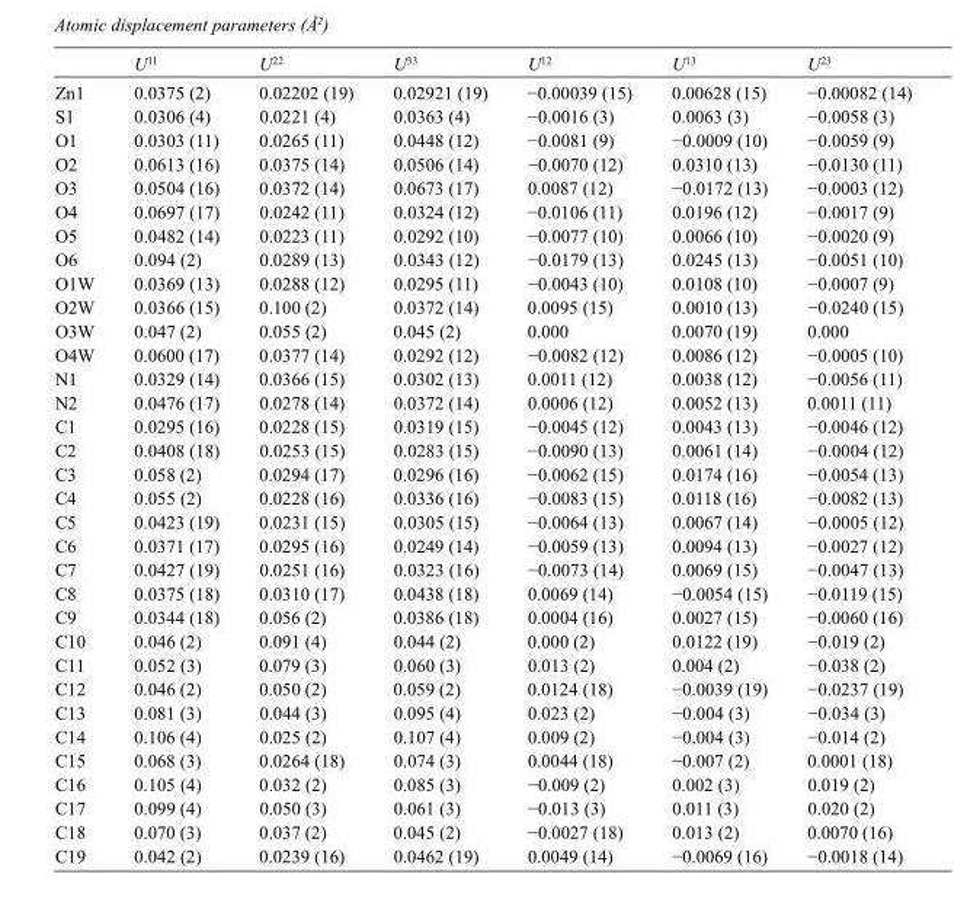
<table><thead><tr><td></td><td>U<sup>11</sup></td><td>U<sup>22</sup></td><td>U<sup>33</sup></td><td>U<sup>12</sup></td><td>U<sup>13</sup></td><td>U<sup>23</sup></td></tr></thead><tbody><tr><td>Zn1</td><td>0.0375 (2)</td><td>0.02202 (19)</td><td>0.02921 (19)</td><td>−0.00039 (15)</td><td>0.00628 (15)</td><td>−0.00082 (14)</td></tr><tr><td>S1</td><td>0.0306 (4)</td><td>0.0221 (4)</td><td>0.0363 (4)</td><td>−0.0016 (3)</td><td>0.0063 (3)</td><td>−0.0058 (3)</td></tr><tr><td>O1</td><td>0.0303 (11)</td><td>0.0265 (11)</td><td>0.0448 (12)</td><td>−0.0081 (9)</td><td>−0.0009 (10)</td><td>−0.0059 (9)</td></tr><tr><td>O2</td><td>0.0613 (16)</td><td>0.0375 (14)</td><td>0.0506 (14)</td><td>−0.0070 (12)</td><td>0.0310 (13)</td><td>−0.0130 (11)</td></tr><tr><td>O3</td><td>0.0504 (16)</td><td>0.0372 (14)</td><td>0.0673 (17)</td><td>0.0087 (12)</td><td>−0.0172 (13)</td><td>−0.0003 (12)</td></tr><tr><td>O4</td><td>0.0697 (17)</td><td>0.0242 (11)</td><td>0.0324 (12)</td><td>−0.0106 (11)</td><td>0.0196 (12)</td><td>−0.0017 (9)</td></tr><tr><td>O5</td><td>0.0482 (14)</td><td>0.0223 (11)</td><td>0.0292 (10)</td><td>−0.0077 (10)</td><td>0.0066 (10)</td><td>−0.0020 (9)</td></tr><tr><td>O6</td><td>0.094 (2)</td><td>0.0289 (13)</td><td>0.0343 (12)</td><td>−0.0179 (13)</td><td>0.0245 (13)</td><td>−0.0051 (10)</td></tr><tr><td>O1W</td><td>0.0369 (13)</td><td>0.0288 (12)</td><td>0.0295 (11)</td><td>−0.0043 (10)</td><td>0.0108 (10)</td><td>−0.0007 (9)</td></tr><tr><td>O2W</td><td>0.0366 (15)</td><td>0.100 (2)</td><td>0.0372 (14)</td><td>0.0095 (15)</td><td>0.0010 (13)</td><td>−0.0240 (15)</td></tr><tr><td>O3W</td><td>0.047 (2)</td><td>0.055 (2)</td><td>0.045 (2)</td><td>0.000</td><td>0.0070 (19)</td><td>0.000</td></tr><tr><td>O4W</td><td>0.0600 (17)</td><td>0.0377 (14)</td><td>0.0292 (12)</td><td>−0.0082 (12)</td><td>0.0086 (12)</td><td>−0.0005 (10)</td></tr><tr><td>N1</td><td>0.0329 (14)</td><td>0.0366 (15)</td><td>0.0302 (13)</td><td>0.0011 (12)</td><td>0.0038 (12)</td><td>−0.0056 (11)</td></tr><tr><td>N2</td><td>0.0476 (17)</td><td>0.0278 (14)</td><td>0.0372 (14)</td><td>0.0006 (12)</td><td>0.0052 (13)</td><td>0.0011 (11)</td></tr><tr><td>C1</td><td>0.0295 (16)</td><td>0.0228 (15)</td><td>0.0319 (15)</td><td>−0.0045 (12)</td><td>0.0043 (13)</td><td>−0.0046 (12)</td></tr><tr><td>C2</td><td>0.0408 (18)</td><td>0.0253 (15)</td><td>0.0283 (15)</td><td>−0.0090 (13)</td><td>0.0061 (14)</td><td>−0.0004 (12)</td></tr><tr><td>C3</td><td>0.058 (2)</td><td>0.0294 (17)</td><td>0.0296 (16)</td><td>−0.0062 (15)</td><td>0.0174 (16)</td><td>−0.0054 (13)</td></tr><tr><td>C4</td><td>0.055 (2)</td><td>0.0228 (16)</td><td>0.0336 (16)</td><td>−0.0083 (15)</td><td>0.0118 (16)</td><td>−0.0082 (13)</td></tr><tr><td>C5</td><td>0.0423 (19)</td><td>0.0231 (15)</td><td>0.0305 (15)</td><td>−0.0064 (13)</td><td>0.0067 (14)</td><td>−0.0005 (12)</td></tr><tr><td>C6</td><td>0.0371 (17)</td><td>0.0295 (16)</td><td>0.0249 (14)</td><td>−0.0059 (13)</td><td>0.0094 (13)</td><td>−0.0027 (12)</td></tr><tr><td>C7</td><td>0.0427 (19)</td><td>0.0251 (16)</td><td>0.0323 (16)</td><td>−0.0073 (14)</td><td>0.0069 (15)</td><td>−0.0047 (13)</td></tr><tr><td>C8</td><td>0.0375 (18)</td><td>0.0310 (17)</td><td>0.0438 (18)</td><td>0.0069 (14)</td><td>−0.0054 (15)</td><td>−0.0119 (15)</td></tr><tr><td>C9</td><td>0.0344 (18)</td><td>0.056 (2)</td><td>0.0386 (18)</td><td>0.0004 (16)</td><td>0.0027 (15)</td><td>−0.0060 (16)</td></tr><tr><td>C10</td><td>0.046 (2)</td><td>0.091 (4)</td><td>0.044 (2)</td><td>0.000 (2)</td><td>0.0122 (19)</td><td>−0.019 (2)</td></tr><tr><td>C11</td><td>0.052 (3)</td><td>0.079 (3)</td><td>0.060 (3)</td><td>0.013 (2)</td><td>0.004 (2)</td><td>−0.038 (2)</td></tr><tr><td>C12</td><td>0.046 (2)</td><td>0.050 (2)</td><td>0.059 (2)</td><td>0.0124 (18)</td><td>−0.0039 (19)</td><td>−0.0237 (19)</td></tr><tr><td>C13</td><td>0.081 (3)</td><td>0.044 (3)</td><td>0.095 (4)</td><td>0.023 (2)</td><td>−0.004 (3)</td><td>−0.034 (3)</td></tr><tr><td>C14</td><td>0.106 (4)</td><td>0.025 (2)</td><td>0.107 (4)</td><td>0.009 (2)</td><td>−0.004 (3)</td><td>−0.014 (2)</td></tr><tr><td>C15</td><td>0.068 (3)</td><td>0.0264 (18)</td><td>0.074 (3)</td><td>0.0044 (18)</td><td>−0.007 (2)</td><td>0.0001 (18)</td></tr><tr><td>C16</td><td>0.105 (4)</td><td>0.032 (2)</td><td>0.085 (3)</td><td>−0.009 (2)</td><td>0.002 (3)</td><td>0.019 (2)</td></tr><tr><td>C17</td><td>0.099 (4)</td><td>0.050 (3)</td><td>0.061 (3)</td><td>−0.013 (3)</td><td>0.011 (3)</td><td>0.020 (2)</td></tr><tr><td>C18</td><td>0.070 (3)</td><td>0.037 (2)</td><td>0.045 (2)</td><td>−0.0027 (18)</td><td>0.013 (2)</td><td>0.0070 (16)</td></tr><tr><td>C19</td><td>0.042 (2)</td><td>0.0239 (16)</td><td>0.0462 (19)</td><td>0.0049 (14)</td><td>−0.0069 (16)</td><td>−0.0018 (14)</td></tr></tbody></table>